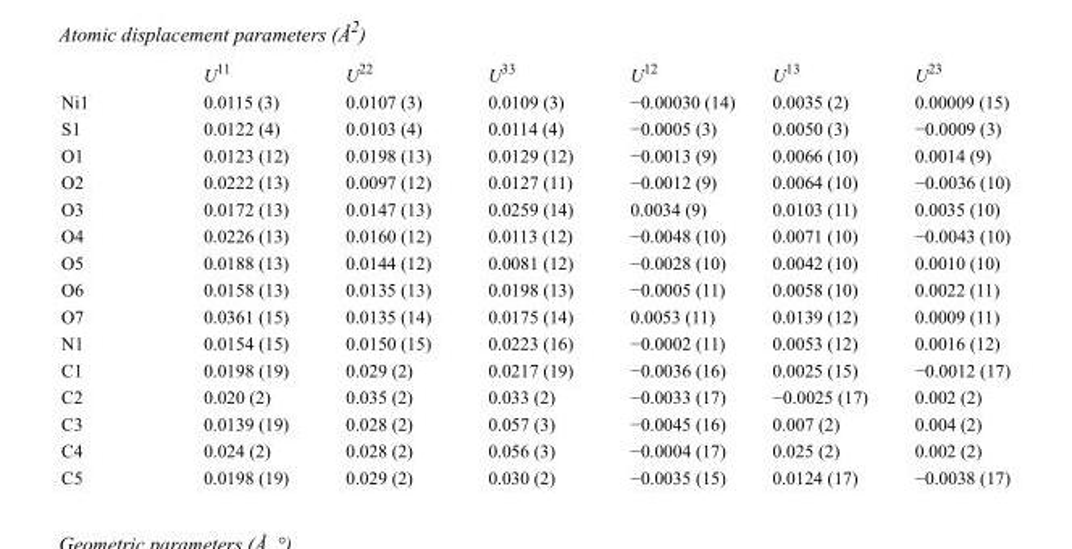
<table><thead><tr><td></td><td>U<sup>11</sup></td><td>U<sup>22</sup></td><td>U<sup>33</sup></td><td>U<sup>12</sup></td><td>U<sup>13</sup></td><td>U<sup>23</sup></td></tr></thead><tbody><tr><td>Ni1</td><td>0.0115 (3)</td><td>0.0107 (3)</td><td>0.0109 (3)</td><td>−0.00030 (14)</td><td>0.0035 (2)</td><td>0.00009 (15)</td></tr><tr><td>S1</td><td>0.0122 (4)</td><td>0.0103 (4)</td><td>0.0114 (4)</td><td>−0.0005 (3)</td><td>0.0050 (3)</td><td>−0.0009 (3)</td></tr><tr><td>O1</td><td>0.0123 (12)</td><td>0.0198 (13)</td><td>0.0129 (12)</td><td>−0.0013 (9)</td><td>0.0066 (10)</td><td>0.0014 (9)</td></tr><tr><td>O2</td><td>0.0222 (13)</td><td>0.0097 (12)</td><td>0.0127 (11)</td><td>−0.0012 (9)</td><td>0.0064 (10)</td><td>−0.0036 (10)</td></tr><tr><td>O3</td><td>0.0172 (13)</td><td>0.0147 (13)</td><td>0.0259 (14)</td><td>0.0034 (9)</td><td>0.0103 (11)</td><td>0.0035 (10)</td></tr><tr><td>O4</td><td>0.0226 (13)</td><td>0.0160 (12)</td><td>0.0113 (12)</td><td>−0.0048 (10)</td><td>0.0071 (10)</td><td>−0.0043 (10)</td></tr><tr><td>O5</td><td>0.0188 (13)</td><td>0.0144 (12)</td><td>0.0081 (12)</td><td>−0.0028 (10)</td><td>0.0042 (10)</td><td>0.0010 (10)</td></tr><tr><td>O6</td><td>0.0158 (13)</td><td>0.0135 (13)</td><td>0.0198 (13)</td><td>−0.0005 (11)</td><td>0.0058 (10)</td><td>0.0022 (11)</td></tr><tr><td>O7</td><td>0.0361 (15)</td><td>0.0135 (14)</td><td>0.0175 (14)</td><td>0.0053 (11)</td><td>0.0139 (12)</td><td>0.0009 (11)</td></tr><tr><td>N1</td><td>0.0154 (15)</td><td>0.0150 (15)</td><td>0.0223 (16)</td><td>−0.0002 (11)</td><td>0.0053 (12)</td><td>0.0016 (12)</td></tr><tr><td>C1</td><td>0.0198 (19)</td><td>0.029 (2)</td><td>0.0217 (19)</td><td>−0.0036 (16)</td><td>0.0025 (15)</td><td>−0.0012 (17)</td></tr><tr><td>C2</td><td>0.020 (2)</td><td>0.035 (2)</td><td>0.033 (2)</td><td>−0.0033 (17)</td><td>−0.0025 (17)</td><td>0.002 (2)</td></tr><tr><td>C3</td><td>0.0139 (19)</td><td>0.028 (2)</td><td>0.057 (3)</td><td>−0.0045 (16)</td><td>0.007 (2)</td><td>0.004 (2)</td></tr><tr><td>C4</td><td>0.024 (2)</td><td>0.028 (2)</td><td>0.056 (3)</td><td>−0.0004 (17)</td><td>0.025 (2)</td><td>0.002 (2)</td></tr><tr><td>C5</td><td>0.0198 (19)</td><td>0.029 (2)</td><td>0.030 (2)</td><td>−0.0035 (15)</td><td>0.0124 (17)</td><td>−0.0038 (17)</td></tr></tbody></table>